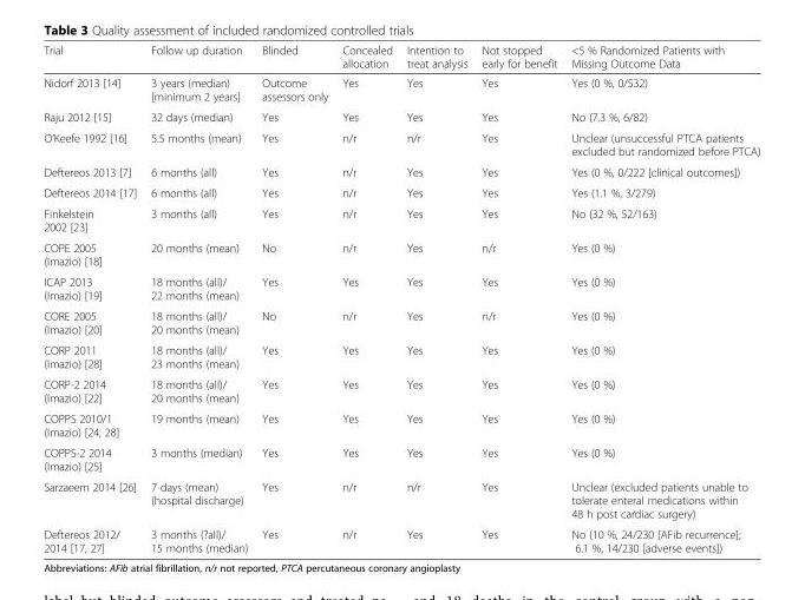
<table><thead><tr><td>Trial</td><td>Follow up duration</td><td>Blinded</td><td>Concealed allocation</td><td>Intention to treat analysis</td><td>Not stopped early for benefit</td><td>&lt;5 % Randomized Patients with Missing Outcome Data</td></tr></thead><tbody><tr><td>Nidorf 2013 [14]</td><td>3 years (median) [minimum 2 years]</td><td>Outcome assessors only</td><td>Yes</td><td>Yes</td><td>Yes</td><td>Yes (0 %, 0/532)</td></tr><tr><td>Raju 2012 [15]</td><td>32 days (median)</td><td>Yes</td><td>Yes</td><td>Yes</td><td>Yes</td><td>No (7.3 %, 6/82)</td></tr><tr><td>O’Keefe 1992 [16]</td><td>5.5 months (mean)</td><td>Yes</td><td>n/r</td><td>n/r</td><td>Yes</td><td>Unclear (unsuccessful PTCA patients excluded but randomized before PTCA)</td></tr><tr><td>Deftereos 2013 [7]</td><td>6 months (all)</td><td>Yes</td><td>n/r</td><td>Yes</td><td>Yes</td><td>Yes (0 %, 0/222 [clinical outcomes])</td></tr><tr><td>Deftereos 2014 [17]</td><td>6 months (all)</td><td>Yes</td><td>n/r</td><td>Yes</td><td>Yes</td><td>Yes (1.1 %, 3/279)</td></tr><tr><td>Finkelstein 2002 [23]</td><td>3 months (all)</td><td>Yes</td><td>n/r</td><td>Yes</td><td>Yes</td><td>No (32 %, 52/163)</td></tr><tr><td>COPE 2005 (Imazio) [18]</td><td>20 months (mean)</td><td>No</td><td>n/r</td><td>Yes</td><td>n/r</td><td>Yes (0 %)</td></tr><tr><td>ICAP 2013 (Imazio) [19]</td><td>18 months (all)/ 22 months (mean)</td><td>Yes</td><td>Yes</td><td>Yes</td><td>Yes</td><td>Yes (0 %)</td></tr><tr><td>CORE 2005 (Imazio) [20]</td><td>18 months (all)/ 20 months (mean)</td><td>No</td><td>n/r</td><td>Yes</td><td>n/r</td><td>Yes (0 %)</td></tr><tr><td>CORP 2011 (Imazio) [28]</td><td>18 months (all)/ 23 months (mean)</td><td>Yes</td><td>Yes</td><td>Yes</td><td>Yes</td><td>Yes (0 %)</td></tr><tr><td>CORP-2 2014 (Imazio) [22]</td><td>18 months (all)/ 20 months (mean)</td><td>Yes</td><td>Yes</td><td>Yes</td><td>Yes</td><td>Yes (0 %)</td></tr><tr><td>COPPS 2010/1 (Imazio) [24, 28]</td><td>19 months (mean)</td><td>Yes</td><td>Yes</td><td>Yes</td><td>Yes</td><td>Yes (0 %)</td></tr><tr><td>COPPS-2 2014 (Imazio) [25]</td><td>3 months (median)</td><td>Yes</td><td>Yes</td><td>Yes</td><td>Yes</td><td>Yes (0 %)</td></tr><tr><td>Sarzaeem 2014 [26]</td><td>7 days (mean) (hospital discharge)</td><td>Yes</td><td>n/r</td><td>n/r</td><td>Yes</td><td>Unclear (excluded patients unable to tolerate enteral medications within 48 h post cardiac surgery)</td></tr><tr><td>Deftereos 2012/ 2014 [17, 27]</td><td>3 months (?all)/ 15 months (median)</td><td>Yes</td><td>n/r</td><td>Yes</td><td>Yes</td><td>No (10 %, 24/230 [AFib recurrence]; 6.1 %, 14/230 [adverse events])</td></tr></tbody></table>